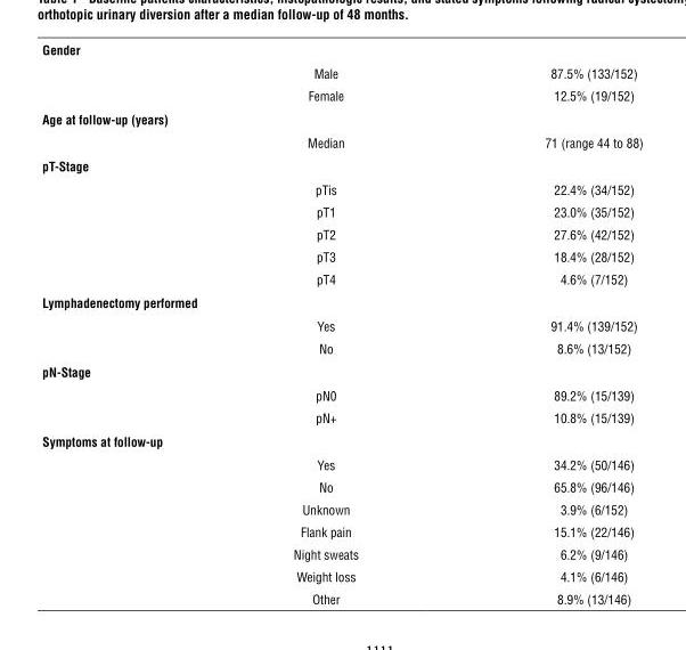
<table><tbody><tr><td colspan="3">gender</td></tr><tr><td></td><td>Male</td><td>87.5% (133/152)</td></tr><tr><td></td><td>Female</td><td>12.5% (19/152)</td></tr><tr><td colspan="3">Age at follow-up (years)</td></tr><tr><td></td><td>Median</td><td>71 (range 44 to 88)</td></tr><tr><td colspan="3">pT-stage</td></tr><tr><td></td><td>pTis</td><td>22.4% (34/152)</td></tr><tr><td></td><td>pT1</td><td>23.0% (35/152)</td></tr><tr><td></td><td>pT2</td><td>27.6% (42/152)</td></tr><tr><td></td><td>pT3</td><td>18.4% (28/152)</td></tr><tr><td></td><td>pT4</td><td>4.6% (7/152)</td></tr><tr><td colspan="3">Lymphadenectomy performed</td></tr><tr><td></td><td>Yes</td><td>91.4% (139/152)</td></tr><tr><td></td><td>No</td><td>8.6% (13/152)</td></tr><tr><td colspan="3">pn-stage</td></tr><tr><td></td><td>pN0</td><td>89.2% (15/139)</td></tr><tr><td></td><td>pN+</td><td>10.8% (15/139)</td></tr><tr><td colspan="3">symptoms at follow-up</td></tr><tr><td></td><td>Yes</td><td>34.2% (50/146)</td></tr><tr><td></td><td>No</td><td>65.8% (96/146)</td></tr><tr><td></td><td>Unknown</td><td>3.9% (6/152)</td></tr><tr><td></td><td>Flank pain</td><td>15.1% (22/146)</td></tr><tr><td></td><td>Night sweats</td><td>6.2% (9/146)</td></tr><tr><td></td><td>Weight loss</td><td>4.1% (6/146)</td></tr><tr><td></td><td>Other</td><td>8.9% (13/146)</td></tr></tbody></table>